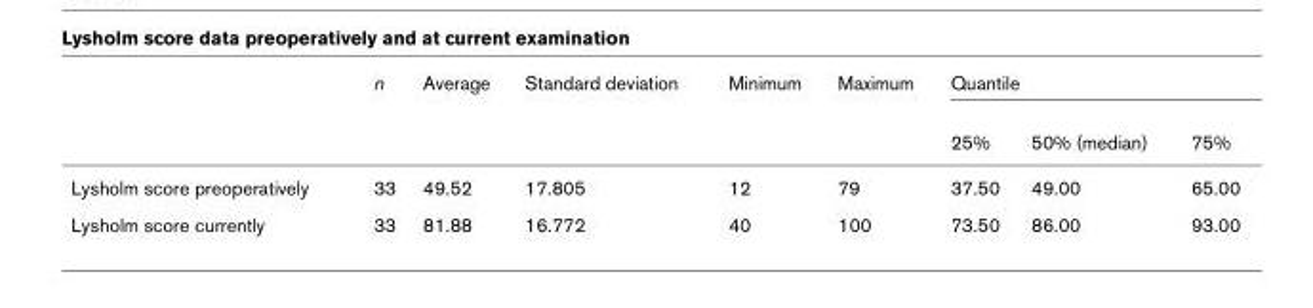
<table><thead><tr><td rowspan="2"></td><td rowspan="2">n</td><td rowspan="2">Average</td><td rowspan="2">Standard deviation</td><td rowspan="2">Minimum</td><td rowspan="2">Maximum</td><td colspan="3">Quantile</td></tr><tr><td>25%</td><td>50% (median)</td><td>75%</td></tr></thead><tbody><tr><td>Lysholm score preoperatively</td><td>33</td><td>49.52</td><td>17.805</td><td>12</td><td>79</td><td>37.50</td><td>49.00</td><td>65.00</td></tr><tr><td>Lysholm score currently</td><td>33</td><td>81.88</td><td>16.772</td><td>40</td><td>100</td><td>73.50</td><td>86.00</td><td>93.00</td></tr></tbody></table>